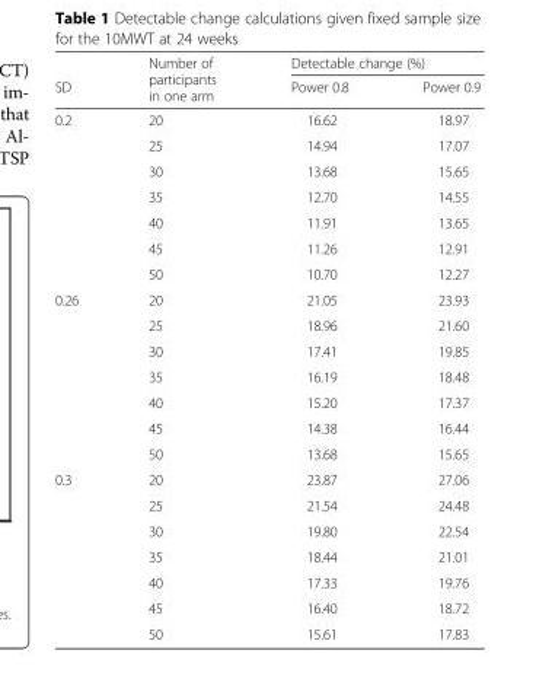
<table><thead><tr><td rowspan="2">SD</td><td rowspan="2">Number of participants in one arm</td><td colspan="2">Detectable change (%)</td></tr><tr><td>Power 0.8</td><td>Power 0.9</td></tr></thead><tbody><tr><td rowspan="7">0.2</td><td>20</td><td>16.62</td><td>18.97</td></tr><tr><td>25</td><td>14.94</td><td>17.07</td></tr><tr><td>30</td><td>13.68</td><td>15.65</td></tr><tr><td>35</td><td>12.70</td><td>14.55</td></tr><tr><td>40</td><td>11.91</td><td>13.65</td></tr><tr><td>45</td><td>11.26</td><td>12.91</td></tr><tr><td>50</td><td>10.70</td><td>12.27</td></tr><tr><td rowspan="7">0.26</td><td>20</td><td>21.05</td><td>23.93</td></tr><tr><td>25</td><td>18.96</td><td>21.60</td></tr><tr><td>30</td><td>17.41</td><td>19.85</td></tr><tr><td>35</td><td>16.19</td><td>18.48</td></tr><tr><td>40</td><td>15.20</td><td>17.37</td></tr><tr><td>45</td><td>14.38</td><td>16.44</td></tr><tr><td>50</td><td>13.68</td><td>15.65</td></tr><tr><td rowspan="7">0.3</td><td>20</td><td>23.87</td><td>27.06</td></tr><tr><td>25</td><td>21.54</td><td>24.48</td></tr><tr><td>30</td><td>19.80</td><td>22.54</td></tr><tr><td>35</td><td>18.44</td><td>21.01</td></tr><tr><td>40</td><td>17.33</td><td>19.76</td></tr><tr><td>45</td><td>16.40</td><td>18.72</td></tr><tr><td>50</td><td>15.61</td><td>17.83</td></tr></tbody></table>